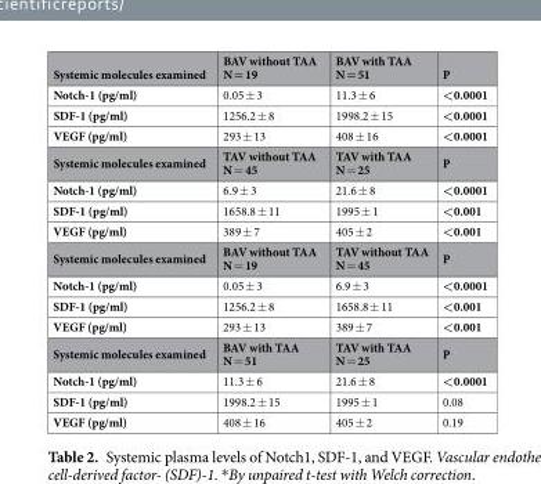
<table><thead><tr><td>Systemic molecules examined</td><td>BAV without TAA N = 19</td><td>BAV with TAA N = 51</td><td>P</td></tr></thead><tbody><tr><td>Notch-1 (pg/ml)</td><td>0.05 ± 3</td><td>11.3 ± 6</td><td>&lt;0.0001</td></tr><tr><td>SDF-1 (pg/ml)</td><td>1256.2 ± 8</td><td>1998.2 ± 15</td><td>&lt;0.0001</td></tr><tr><td>VEGF (pg/ml)</td><td>293 ± 13</td><td>408 ± 16</td><td>&lt;0.0001</td></tr><tr><td>Systemic molecules examined</td><td>TAV without TAA N = 45</td><td>TAV with TAA N = 25</td><td>P</td></tr><tr><td>Notch-1 (pg/ml)</td><td>6.9 ± 3</td><td>21.6 ± 8</td><td>&lt;0.0001</td></tr><tr><td>SDF-1 (pg/ml)</td><td>1658.8 ± 11</td><td>1995 ± 1</td><td>&lt;0.001</td></tr><tr><td>VEGF (pg/ml)</td><td>389 ± 7</td><td>405 ± 2</td><td>&lt;0.001</td></tr><tr><td>Systemic molecules examined</td><td>BAV without TAA N = 19</td><td>TAV without TAA N = 45</td><td>P</td></tr><tr><td>Notch-1 (pg/ml)</td><td>0.05 ± 3</td><td>6.9 ± 3</td><td>&lt;0.0001</td></tr><tr><td>SDF-1 (pg/ml)</td><td>1256.2 ± 8</td><td>1658.8 ± 11</td><td>&lt;0.001</td></tr><tr><td>VEGF (pg/ml)</td><td>293 ± 13</td><td>389 ± 7</td><td>&lt;0.001</td></tr><tr><td>Systemic molecules examined</td><td>BAV with TAA N = 51</td><td>TAV with TAA N = 25</td><td>P</td></tr><tr><td>Notch-1 (pg/ml)</td><td>11.3 ± 6</td><td>21.6 ± 8</td><td>&lt;0.0001</td></tr><tr><td>SDF-1 (pg/ml)</td><td>1998.2 ± 15</td><td>1995 ± 1</td><td>0.08</td></tr><tr><td>VEGF (pg/ml)</td><td>408 ± 16</td><td>405 ± 2</td><td>0.19</td></tr></tbody></table>